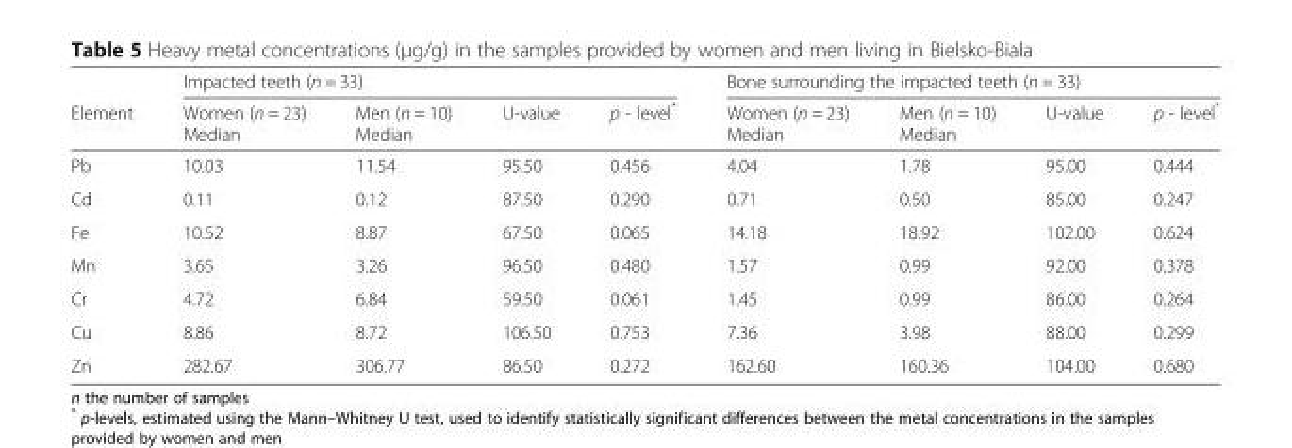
<table><thead><tr><td rowspan="2">Element</td><td colspan="4">Impacted teeth (n = 33)</td><td colspan="4">Bone surrounding the impacted teeth (n = 33)</td></tr><tr><td>Women (n = 23) Median</td><td>Men (n = 10) Median</td><td>U-value</td><td>p - level*</td><td>Women (n = 23) Median</td><td>Men (n = 10) Median</td><td>U-value</td><td>p - level*</td></tr></thead><tbody><tr><td>Pb</td><td>10.03</td><td>11.54</td><td>95.50</td><td>0.456</td><td>4.04</td><td>1.78</td><td>95.00</td><td>0.444</td></tr><tr><td>Cd</td><td>0.11</td><td>0.12</td><td>87.50</td><td>0.290</td><td>0.71</td><td>0.50</td><td>85.00</td><td>0.247</td></tr><tr><td>Fe</td><td>10.52</td><td>8.87</td><td>67.50</td><td>0.065</td><td>14.18</td><td>18.92</td><td>102.00</td><td>0.624</td></tr><tr><td>Mn</td><td>3.65</td><td>3.26</td><td>96.50</td><td>0.480</td><td>1.57</td><td>0.99</td><td>92.00</td><td>0.378</td></tr><tr><td>Cr</td><td>4.72</td><td>6.84</td><td>59.50</td><td>0.061</td><td>1.45</td><td>0.99</td><td>86.00</td><td>0.264</td></tr><tr><td>Cu</td><td>8.86</td><td>8.72</td><td>106.50</td><td>0.753</td><td>7.36</td><td>3.98</td><td>88.00</td><td>0.299</td></tr><tr><td>Zn</td><td>282.67</td><td>306.77</td><td>86.50</td><td>0.272</td><td>162.60</td><td>160.36</td><td>104.00</td><td>0.680</td></tr></tbody></table>